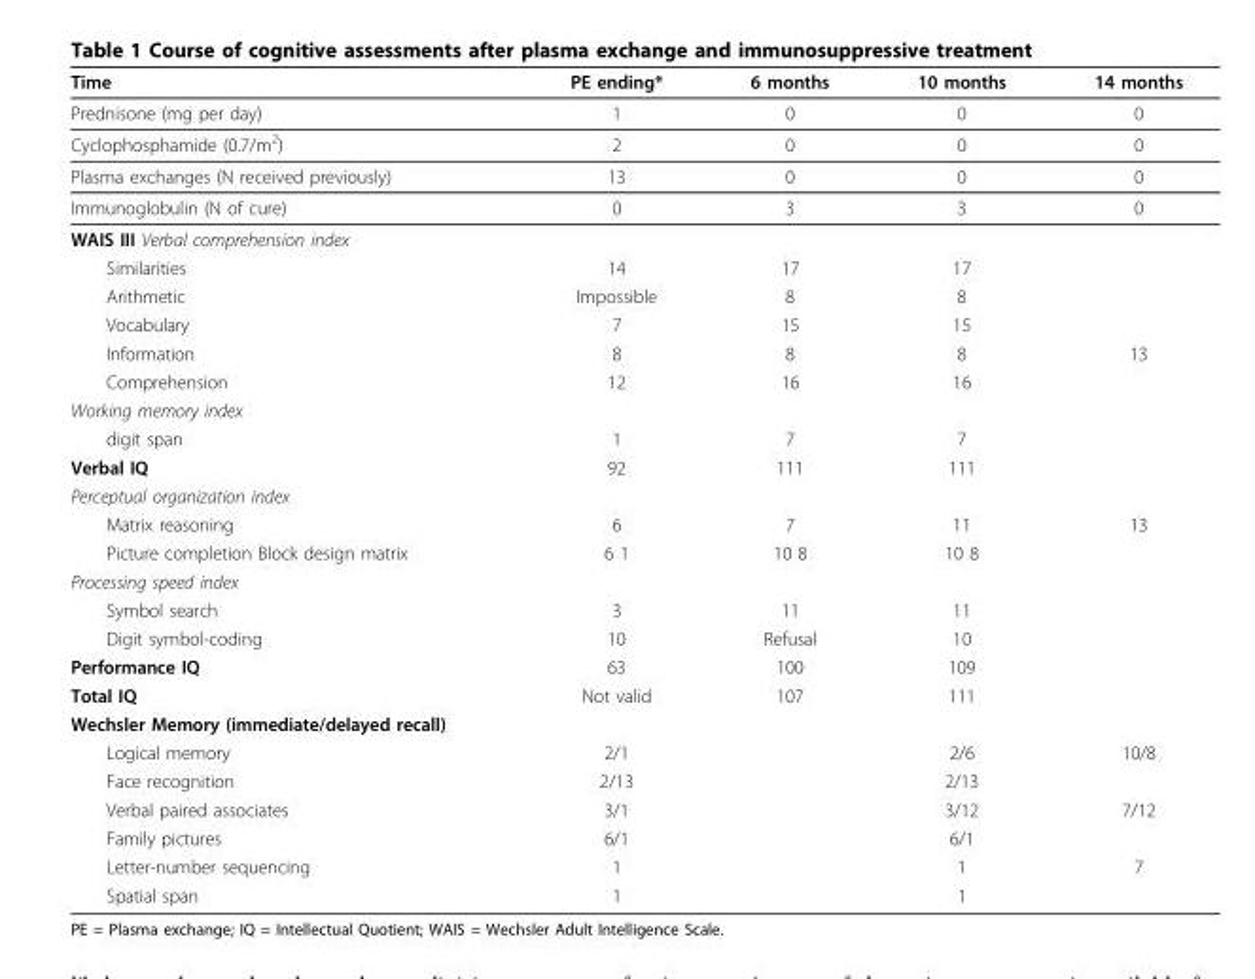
<table><thead><tr><td>Time</td><td>PE ending*</td><td>6 months</td><td>10 months</td><td>14 months</td></tr></thead><tbody><tr><td>Prednisone (mg per day)</td><td>1</td><td>0</td><td>0</td><td>0</td></tr><tr><td>Cyclophosphamide (0.7/m<sup>2</sup>)</td><td>2</td><td>0</td><td>0</td><td>0</td></tr><tr><td>Plasma exchanges (N received previously)</td><td>13</td><td>0</td><td>0</td><td>0</td></tr><tr><td>Immunoglobulin (N of cure)</td><td>0</td><td>3</td><td>3</td><td>0</td></tr><tr><td colspan="5">WAIS III Verbal comprehension index</td></tr><tr><td>Similarities</td><td>14</td><td>17</td><td>17</td><td></td></tr><tr><td>Arithmetic</td><td>Impossible</td><td>8</td><td>8</td><td></td></tr><tr><td>Vocabulary</td><td>7</td><td>15</td><td>15</td><td></td></tr><tr><td>Information</td><td>8</td><td>8</td><td>8</td><td>13</td></tr><tr><td>Comprehension</td><td>12</td><td>16</td><td>16</td><td></td></tr><tr><td colspan="5">Working memory index</td></tr><tr><td>digit span</td><td>1</td><td>7</td><td>7</td><td></td></tr><tr><td>Verbal IQ</td><td>92</td><td>111</td><td>111</td><td></td></tr><tr><td colspan="5">Perceptual organization index</td></tr><tr><td>Matrix reasoning</td><td>6</td><td>7</td><td>11</td><td>13</td></tr><tr><td>Picture completion Block design matrix</td><td>6 1</td><td>10 8</td><td>10 8</td><td></td></tr><tr><td colspan="5">Processing speed index</td></tr><tr><td>Symbol search</td><td>3</td><td>11</td><td>11</td><td></td></tr><tr><td>Digit symbol-coding</td><td>10</td><td>Refusal</td><td>10</td><td></td></tr><tr><td>Performance IQ</td><td>63</td><td>100</td><td>109</td><td></td></tr><tr><td>Total IQ</td><td>Not valid</td><td>107</td><td>111</td><td></td></tr><tr><td colspan="5">Wechsler Memory (immediate/delayed recall)</td></tr><tr><td>Logical memory</td><td>2/1</td><td></td><td>2/6</td><td>10/8</td></tr><tr><td>Face recognition</td><td>2/13</td><td></td><td>2/13</td><td></td></tr><tr><td>Verbal paired associates</td><td>3/1</td><td></td><td>3/12</td><td>7/12</td></tr><tr><td>Family pictures</td><td>6/1</td><td></td><td>6/1</td><td></td></tr><tr><td>Letter-number sequencing</td><td>1</td><td></td><td>1</td><td>7</td></tr><tr><td>Spatial span</td><td>1</td><td></td><td>1</td><td></td></tr></tbody></table>